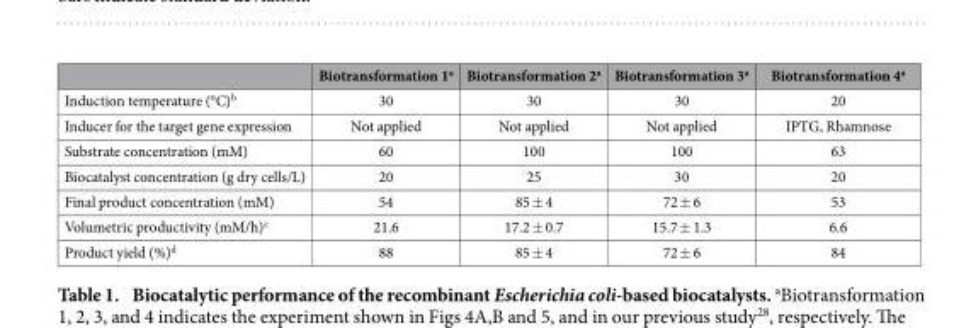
<table><thead><tr><td></td><td>Biotransformation 1<sup>a</sup></td><td>Biotransformation 2<sup>a</sup></td><td>Biotransformation 3<sup>a</sup></td><td>Biotransformation 4<sup>a</sup></td></tr></thead><tbody><tr><td>Induction temperature (°C)<sup>b</sup></td><td>30</td><td>30</td><td>30</td><td>20</td></tr><tr><td>Inducer for the target gene expression</td><td>Not applied</td><td>Not applied</td><td>Not applied</td><td>IPTG, Rhamnose</td></tr><tr><td>Substrate concentration (mM)</td><td>60</td><td>100</td><td>100</td><td>63</td></tr><tr><td>Biocatalyst concentration (g dry cells/L)</td><td>20</td><td>25</td><td>30</td><td>20</td></tr><tr><td>Final product concentration (mM)</td><td>54</td><td>85 ± 4</td><td>72 ± 6</td><td>53</td></tr><tr><td>Volumetric productivity (mM/h)<sup>c</sup></td><td>21.6</td><td>17.2 ± 0.7</td><td>15.7 ± 1.3</td><td>6.6</td></tr><tr><td>Product yield (%)<sup>d</sup></td><td>88</td><td>85 ± 4</td><td>72 ± 6</td><td>84</td></tr></tbody></table>